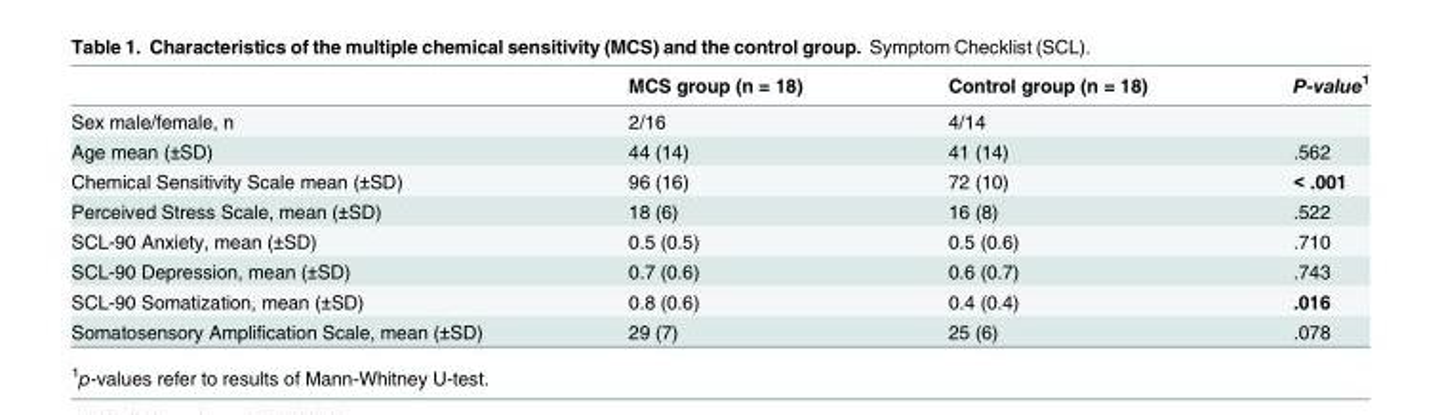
<table><thead><tr><td></td><td>MCS group (n = 18)</td><td>Control group (n = 18)</td><td>P-value<sup>1</sup></td></tr></thead><tbody><tr><td>Sex male/female, n</td><td>2/16</td><td>4/14</td><td></td></tr><tr><td>Age mean (±SD)</td><td>44 (14)</td><td>41 (14)</td><td>.562</td></tr><tr><td>Chemical Sensitivity Scale mean (±SD)</td><td>96 (16)</td><td>72 (10)</td><td>&lt; .001</td></tr><tr><td>Perceived Stress Scale, mean (±SD)</td><td>18 (6)</td><td>16 (8)</td><td>.522</td></tr><tr><td>SCL-90 Anxiety, mean (±SD)</td><td>0.5 (0.5)</td><td>0.5 (0.6)</td><td>.710</td></tr><tr><td>SCL-90 Depression, mean (±SD)</td><td>0.7 (0.6)</td><td>0.6 (0.7)</td><td>.743</td></tr><tr><td>SCL-90 Somatization, mean (±SD)</td><td>0.8 (0.6)</td><td>0.4 (0.4)</td><td>.016</td></tr><tr><td>Somatosensory Amplification Scale, mean (±SD)</td><td>29 (7)</td><td>25 (6)</td><td>.078</td></tr></tbody></table>